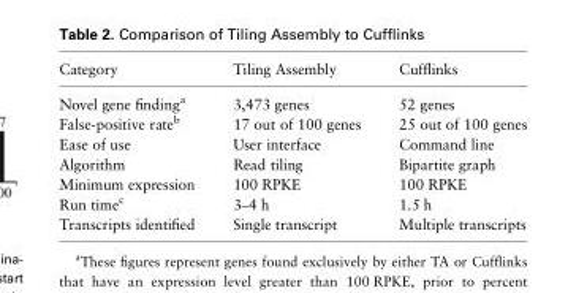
<table><thead><tr><td>Category</td><td>Tiling Assembly</td><td>Cufflinks</td></tr></thead><tbody><tr><td>Novel gene finding<sup>a</sup></td><td>3,473 genes</td><td>52 genes</td></tr><tr><td>False-positive rate<sup>b</sup></td><td>17 out of 100 genes</td><td>25 out of 100 genes</td></tr><tr><td>Ease of use</td><td>User interface</td><td>Command line</td></tr><tr><td>Algorithm</td><td>Read tiling</td><td>Bipartite graph</td></tr><tr><td>Minimum expression</td><td>100 RPKE</td><td>100 RPKE</td></tr><tr><td>Run time<sup>c</sup></td><td>3–4 h</td><td>1.5 h</td></tr><tr><td>Transcripts identified</td><td>Single transcript</td><td>Multiple transcripts</td></tr></tbody></table>